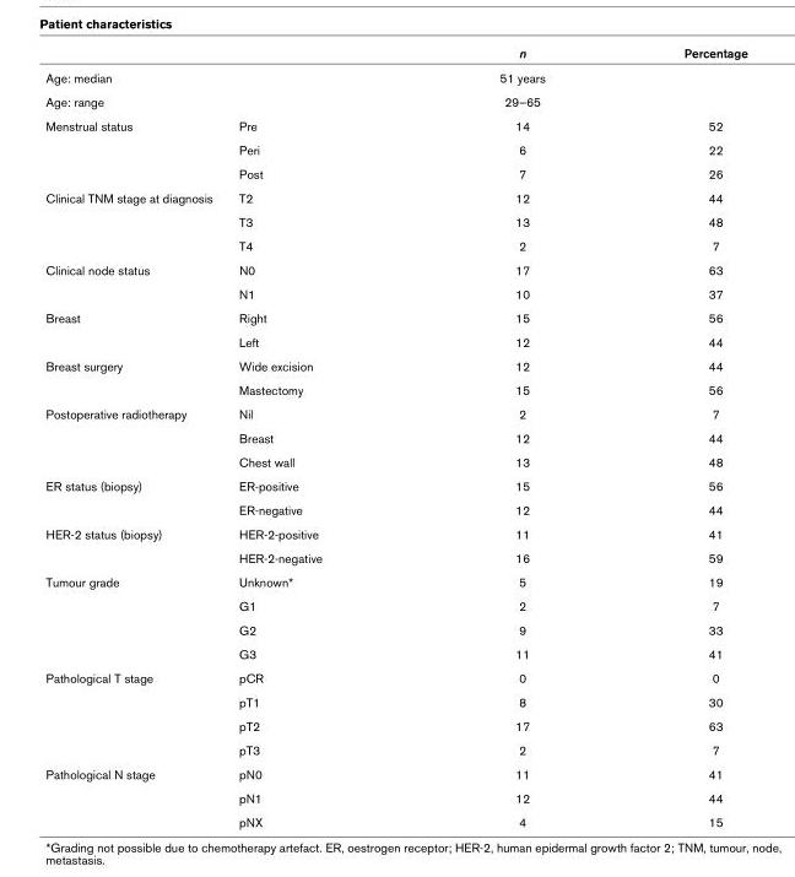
<table><thead><tr><td></td><td></td><td>n</td><td>Percentage</td></tr></thead><tbody><tr><td>Age: median</td><td></td><td>51 years</td><td></td></tr><tr><td>Age: range</td><td></td><td>29–65</td><td></td></tr><tr><td rowspan="3">Menstrual status</td><td>Pre</td><td>14</td><td>52</td></tr><tr><td>Peri</td><td>6</td><td>22</td></tr><tr><td>Post</td><td>7</td><td>26</td></tr><tr><td rowspan="3">Clinical TNM stage at diagnosis</td><td>T2</td><td>12</td><td>44</td></tr><tr><td>T3</td><td>13</td><td>48</td></tr><tr><td>T4</td><td>2</td><td>7</td></tr><tr><td rowspan="2">Clinical node status</td><td>N0</td><td>17</td><td>63</td></tr><tr><td>N1</td><td>10</td><td>37</td></tr><tr><td rowspan="2">Breast</td><td>Right</td><td>15</td><td>56</td></tr><tr><td>Left</td><td>12</td><td>44</td></tr><tr><td rowspan="2">Breast surgery</td><td>Wide excision</td><td>12</td><td>44</td></tr><tr><td>Mastectomy</td><td>15</td><td>56</td></tr><tr><td rowspan="3">Postoperative radiotherapy</td><td>Nil</td><td>2</td><td>7</td></tr><tr><td>Breast</td><td>12</td><td>44</td></tr><tr><td>Chest wall</td><td>13</td><td>48</td></tr><tr><td rowspan="2">ER status (biopsy)</td><td>ER-positive</td><td>15</td><td>56</td></tr><tr><td>ER-negative</td><td>12</td><td>44</td></tr><tr><td rowspan="2">HER-2 status (biopsy)</td><td>HER-2-positive</td><td>11</td><td>41</td></tr><tr><td>HER-2-negative</td><td>16</td><td>59</td></tr><tr><td rowspan="4">Tumour grade</td><td>Unknown*</td><td>5</td><td>19</td></tr><tr><td>G1</td><td>2</td><td>7</td></tr><tr><td>G2</td><td>9</td><td>33</td></tr><tr><td>G3</td><td>11</td><td>41</td></tr><tr><td rowspan="4">Pathological T stage</td><td>pCR</td><td>0</td><td>0</td></tr><tr><td>pT1</td><td>8</td><td>30</td></tr><tr><td>pT2</td><td>17</td><td>63</td></tr><tr><td>pT3</td><td>2</td><td>7</td></tr><tr><td rowspan="3">Pathological N stage</td><td>pN0</td><td>11</td><td>41</td></tr><tr><td>pN1</td><td>12</td><td>44</td></tr><tr><td>pNX</td><td>4</td><td>15</td></tr></tbody></table>